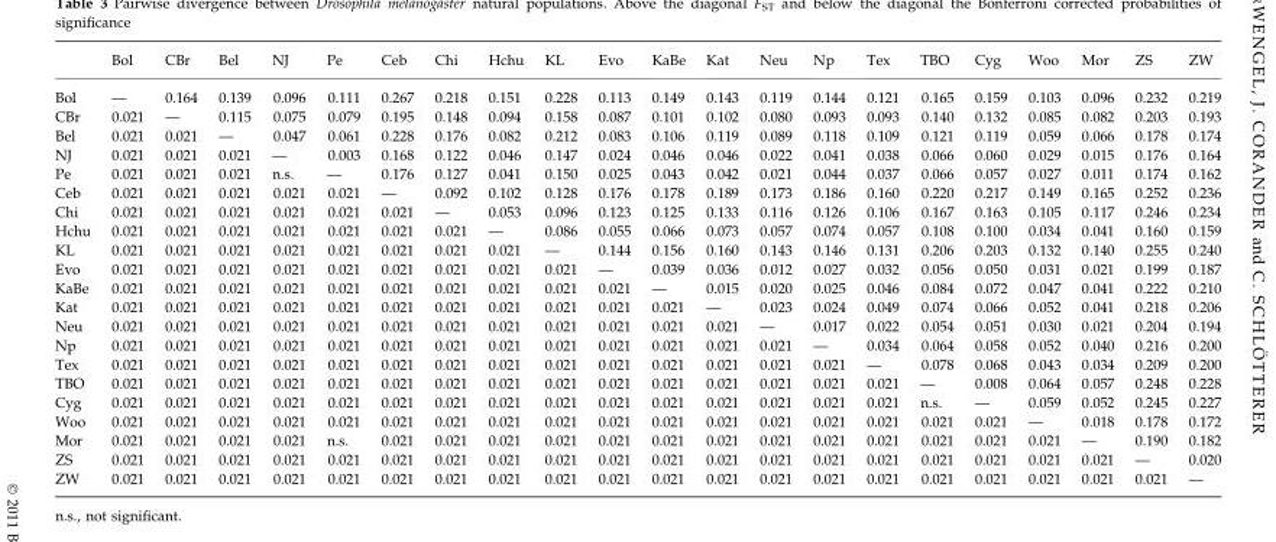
<table><thead><tr><td></td><td>Bol</td><td>CBr</td><td>Bel</td><td>NJ</td><td>Pe</td><td>Ceb</td><td>Chi</td><td>Hchu</td><td>KL</td><td>Evo</td><td>KaBe</td><td>Kat</td><td>Neu</td><td>Np</td><td>Tex</td><td>TBO</td><td>Cyg</td><td>Woo</td><td>Mor</td><td>ZS</td><td>ZW</td></tr></thead><tbody><tr><td>Bol</td><td>—</td><td>0.164</td><td>0.139</td><td>0.096</td><td>0.111</td><td>0.267</td><td>0.218</td><td>0.151</td><td>0.228</td><td>0.113</td><td>0.149</td><td>0.143</td><td>0.119</td><td>0.144</td><td>0.121</td><td>0.165</td><td>0.159</td><td>0.103</td><td>0.096</td><td>0.232</td><td>0.219</td></tr><tr><td>CBr</td><td>0.021</td><td>—</td><td>0.115</td><td>0.075</td><td>0.079</td><td>0.195</td><td>0.148</td><td>0.094</td><td>0.158</td><td>0.087</td><td>0.101</td><td>0.102</td><td>0.080</td><td>0.093</td><td>0.093</td><td>0.140</td><td>0.132</td><td>0.085</td><td>0.082</td><td>0.203</td><td>0.193</td></tr><tr><td>Bel</td><td>0.021</td><td>0.021</td><td>—</td><td>0.047</td><td>0.061</td><td>0.228</td><td>0.176</td><td>0.082</td><td>0.212</td><td>0.083</td><td>0.106</td><td>0.119</td><td>0.089</td><td>0.118</td><td>0.109</td><td>0.121</td><td>0.119</td><td>0.059</td><td>0.066</td><td>0.178</td><td>0.174</td></tr><tr><td>NJ</td><td>0.021</td><td>0.021</td><td>0.021</td><td>—</td><td>0.003</td><td>0.168</td><td>0.122</td><td>0.046</td><td>0.147</td><td>0.024</td><td>0.046</td><td>0.046</td><td>0.022</td><td>0.041</td><td>0.038</td><td>0.066</td><td>0.060</td><td>0.029</td><td>0.015</td><td>0.176</td><td>0.164</td></tr><tr><td>Pe</td><td>0.021</td><td>0.021</td><td>0.021</td><td>n.s.</td><td>—</td><td>0.176</td><td>0.127</td><td>0.041</td><td>0.150</td><td>0.025</td><td>0.043</td><td>0.042</td><td>0.021</td><td>0.044</td><td>0.037</td><td>0.066</td><td>0.057</td><td>0.027</td><td>0.011</td><td>0.174</td><td>0.162</td></tr><tr><td>Ceb</td><td>0.021</td><td>0.021</td><td>0.021</td><td>0.021</td><td>0.021</td><td>—</td><td>0.092</td><td>0.102</td><td>0.128</td><td>0.176</td><td>0.178</td><td>0.189</td><td>0.173</td><td>0.186</td><td>0.160</td><td>0.220</td><td>0.217</td><td>0.149</td><td>0.165</td><td>0.252</td><td>0.236</td></tr><tr><td>Chi</td><td>0.021</td><td>0.021</td><td>0.021</td><td>0.021</td><td>0.021</td><td>0.021</td><td>—</td><td>0.053</td><td>0.096</td><td>0.123</td><td>0.125</td><td>0.133</td><td>0.116</td><td>0.126</td><td>0.106</td><td>0.167</td><td>0.163</td><td>0.105</td><td>0.117</td><td>0.246</td><td>0.234</td></tr><tr><td>Hchu</td><td>0.021</td><td>0.021</td><td>0.021</td><td>0.021</td><td>0.021</td><td>0.021</td><td>0.021</td><td>—</td><td>0.086</td><td>0.055</td><td>0.066</td><td>0.073</td><td>0.057</td><td>0.074</td><td>0.057</td><td>0.108</td><td>0.100</td><td>0.034</td><td>0.041</td><td>0.160</td><td>0.159</td></tr><tr><td>KL</td><td>0.021</td><td>0.021</td><td>0.021</td><td>0.021</td><td>0.021</td><td>0.021</td><td>0.021</td><td>0.021</td><td>—</td><td>0.144</td><td>0.156</td><td>0.160</td><td>0.143</td><td>0.146</td><td>0.131</td><td>0.206</td><td>0.203</td><td>0.132</td><td>0.140</td><td>0.255</td><td>0.240</td></tr><tr><td>Evo</td><td>0.021</td><td>0.021</td><td>0.021</td><td>0.021</td><td>0.021</td><td>0.021</td><td>0.021</td><td>0.021</td><td>0.021</td><td>—</td><td>0.039</td><td>0.036</td><td>0.012</td><td>0.027</td><td>0.032</td><td>0.056</td><td>0.050</td><td>0.031</td><td>0.021</td><td>0.199</td><td>0.187</td></tr><tr><td>KaBe</td><td>0.021</td><td>0.021</td><td>0.021</td><td>0.021</td><td>0.021</td><td>0.021</td><td>0.021</td><td>0.021</td><td>0.021</td><td>0.021</td><td>—</td><td>0.015</td><td>0.020</td><td>0.025</td><td>0.046</td><td>0.084</td><td>0.072</td><td>0.047</td><td>0.041</td><td>0.222</td><td>0.210</td></tr><tr><td>Kat</td><td>0.021</td><td>0.021</td><td>0.021</td><td>0.021</td><td>0.021</td><td>0.021</td><td>0.021</td><td>0.021</td><td>0.021</td><td>0.021</td><td>0.021</td><td>—</td><td>0.023</td><td>0.024</td><td>0.049</td><td>0.074</td><td>0.066</td><td>0.052</td><td>0.041</td><td>0.218</td><td>0.206</td></tr><tr><td>Neu</td><td>0.021</td><td>0.021</td><td>0.021</td><td>0.021</td><td>0.021</td><td>0.021</td><td>0.021</td><td>0.021</td><td>0.021</td><td>0.021</td><td>0.021</td><td>0.021</td><td>—</td><td>0.017</td><td>0.022</td><td>0.054</td><td>0.051</td><td>0.030</td><td>0.021</td><td>0.204</td><td>0.194</td></tr><tr><td>Np</td><td>0.021</td><td>0.021</td><td>0.021</td><td>0.021</td><td>0.021</td><td>0.021</td><td>0.021</td><td>0.021</td><td>0.021</td><td>0.021</td><td>0.021</td><td>0.021</td><td>0.021</td><td>—</td><td>0.034</td><td>0.064</td><td>0.058</td><td>0.052</td><td>0.040</td><td>0.216</td><td>0.200</td></tr><tr><td>Tex</td><td>0.021</td><td>0.021</td><td>0.021</td><td>0.021</td><td>0.021</td><td>0.021</td><td>0.021</td><td>0.021</td><td>0.021</td><td>0.021</td><td>0.021</td><td>0.021</td><td>0.021</td><td>0.021</td><td>—</td><td>0.078</td><td>0.068</td><td>0.043</td><td>0.034</td><td>0.209</td><td>0.200</td></tr><tr><td>TBO</td><td>0.021</td><td>0.021</td><td>0.021</td><td>0.021</td><td>0.021</td><td>0.021</td><td>0.021</td><td>0.021</td><td>0.021</td><td>0.021</td><td>0.021</td><td>0.021</td><td>0.021</td><td>0.021</td><td>0.021</td><td>—</td><td>0.008</td><td>0.064</td><td>0.057</td><td>0.248</td><td>0.228</td></tr><tr><td>Cyg</td><td>0.021</td><td>0.021</td><td>0.021</td><td>0.021</td><td>0.021</td><td>0.021</td><td>0.021</td><td>0.021</td><td>0.021</td><td>0.021</td><td>0.021</td><td>0.021</td><td>0.021</td><td>0.021</td><td>0.021</td><td>n.s.</td><td>—</td><td>0.059</td><td>0.052</td><td>0.245</td><td>0.227</td></tr><tr><td>Woo</td><td>0.021</td><td>0.021</td><td>0.021</td><td>0.021</td><td>0.021</td><td>0.021</td><td>0.021</td><td>0.021</td><td>0.021</td><td>0.021</td><td>0.021</td><td>0.021</td><td>0.021</td><td>0.021</td><td>0.021</td><td>0.021</td><td>0.021</td><td>—</td><td>0.018</td><td>0.178</td><td>0.172</td></tr><tr><td>Mor</td><td>0.021</td><td>0.021</td><td>0.021</td><td>0.021</td><td>n.s.</td><td>0.021</td><td>0.021</td><td>0.021</td><td>0.021</td><td>0.021</td><td>0.021</td><td>0.021</td><td>0.021</td><td>0.021</td><td>0.021</td><td>0.021</td><td>0.021</td><td>0.021</td><td>—</td><td>0.190</td><td>0.182</td></tr><tr><td>ZS</td><td>0.021</td><td>0.021</td><td>0.021</td><td>0.021</td><td>0.021</td><td>0.021</td><td>0.021</td><td>0.021</td><td>0.021</td><td>0.021</td><td>0.021</td><td>0.021</td><td>0.021</td><td>0.021</td><td>0.021</td><td>0.021</td><td>0.021</td><td>0.021</td><td>0.021</td><td>—</td><td>0.020</td></tr><tr><td>ZW</td><td>0.021</td><td>0.021</td><td>0.021</td><td>0.021</td><td>0.021</td><td>0.021</td><td>0.021</td><td>0.021</td><td>0.021</td><td>0.021</td><td>0.021</td><td>0.021</td><td>0.021</td><td>0.021</td><td>0.021</td><td>0.021</td><td>0.021</td><td>0.021</td><td>0.021</td><td>0.021</td><td>—</td></tr></tbody></table>